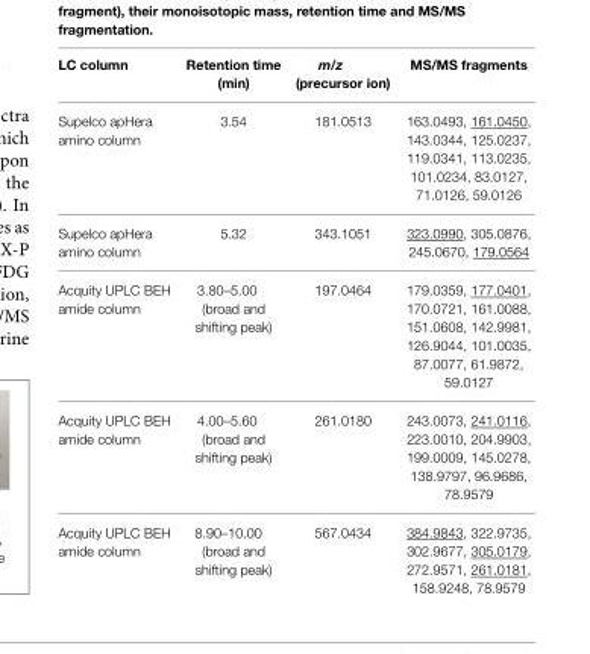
<table><thead><tr><td>LC column</td><td>Retention time (min)</td><td>m/z (precursor ion)</td><td>MS/MS fragments</td></tr></thead><tbody><tr><td>Supelco apHera amino column</td><td>3.54</td><td>181.0513</td><td>163.0493, 161.0450, 143.0344, 125.0237, 119.0341, 113.0235, 101.0234, 83.0127, 71.0126, 59.0126</td></tr><tr><td>Supelco apHera amino column</td><td>5.32</td><td>343.1051</td><td>323.0990, 305.0876, 245.0670, 179.0564</td></tr><tr><td>Acquity UPLC BEH amide column</td><td>3.80–5.00 (broad and shifting peak)</td><td>197.0464</td><td>179.0359, 177.0401, 170.0721, 161.0088, 151.0608, 142.9981, 126.9044, 101.0035, 87.0077, 61.9872, 59.0127</td></tr><tr><td>Acquity UPLC BEH amide column</td><td>4.00–5.60 (broad and shifting peak)</td><td>261.0180</td><td>243.0073, 241.0116, 223.0010, 204.9903, 199.0009, 145.0278, 138.9797, 96.9686, 78.9579</td></tr><tr><td>Acquity UPLC BEH amide column</td><td>8.90–10.00 (broad and shifting peak)</td><td>567.0434</td><td>384.9843, 322.9735, 302.9677, 305.0179, 272.9571, 261.0181, 158.9248, 78.9579</td></tr></tbody></table>